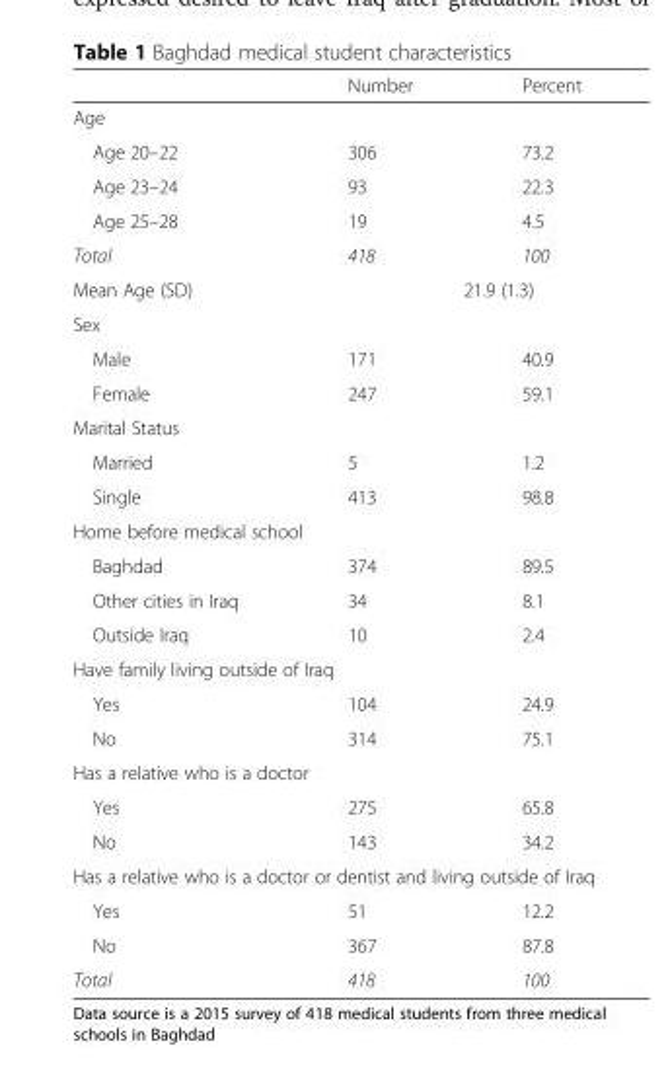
<table><thead><tr><td></td><td>Number</td><td>Percent</td></tr></thead><tbody><tr><td colspan="3">Age</td></tr><tr><td>Age 20–22</td><td>306</td><td>73.2</td></tr><tr><td>Age 23–24</td><td>93</td><td>22.3</td></tr><tr><td>Age 25–28</td><td>19</td><td>4.5</td></tr><tr><td>Total</td><td>418</td><td>100</td></tr><tr><td>Mean Age (SD)</td><td colspan="2">21.9 (1.3)</td></tr><tr><td colspan="3">Sex</td></tr><tr><td>Male</td><td>171</td><td>40.9</td></tr><tr><td>Female</td><td>247</td><td>59.1</td></tr><tr><td colspan="3">Marital Status</td></tr><tr><td>Married</td><td>5</td><td>1.2</td></tr><tr><td>Single</td><td>413</td><td>98.8</td></tr><tr><td colspan="3">Home before medical school</td></tr><tr><td>Baghdad</td><td>374</td><td>89.5</td></tr><tr><td>Other cities in Iraq</td><td>34</td><td>8.1</td></tr><tr><td>Outside Iraq</td><td>10</td><td>2.4</td></tr><tr><td colspan="3">Have family living outside of Iraq</td></tr><tr><td>Yes</td><td>104</td><td>24.9</td></tr><tr><td>No</td><td>314</td><td>75.1</td></tr><tr><td colspan="3">Has a relative who is a doctor</td></tr><tr><td>Yes</td><td>275</td><td>65.8</td></tr><tr><td>No</td><td>143</td><td>34.2</td></tr><tr><td colspan="3">Has a relative who is a doctor or dentist and living outside of Iraq</td></tr><tr><td>Yes</td><td>51</td><td>12.2</td></tr><tr><td>No</td><td>367</td><td>87.8</td></tr><tr><td>Total</td><td>418</td><td>100</td></tr></tbody></table>